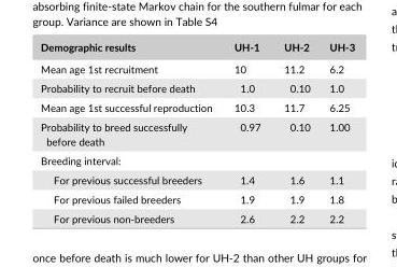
<table><thead><tr><td>Demographic results</td><td>UH-1</td><td>UH-2</td><td>UH-3</td></tr></thead><tbody><tr><td>Mean age 1st recruitment</td><td>10</td><td>11.2</td><td>6.2</td></tr><tr><td>Probability to recruit before death</td><td>1.0</td><td>0.10</td><td>1.0</td></tr><tr><td>Mean age 1st successful reproduction</td><td>10.3</td><td>11.7</td><td>6.25</td></tr><tr><td>Probability to breed successfully before death</td><td>0.97</td><td>0.10</td><td>1.00</td></tr><tr><td colspan="4">Breeding interval:</td></tr><tr><td>For previous successful breeders</td><td>1.4</td><td>1.6</td><td>1.1</td></tr><tr><td>For previous failed breeders</td><td>1.9</td><td>1.9</td><td>1.8</td></tr><tr><td>For previous non-breeders</td><td>2.6</td><td>2.2</td><td>2.2</td></tr></tbody></table>